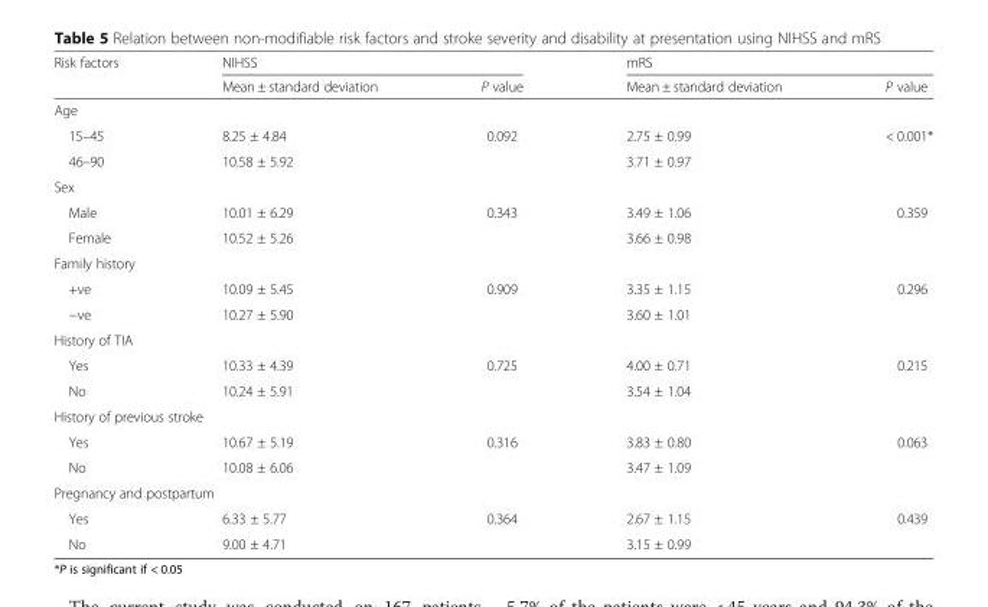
<table><thead><tr><td rowspan="2">Risk factors</td><td colspan="2">NIHSS</td><td colspan="2">mRS</td></tr><tr><td>Mean ± standard deviation</td><td>P value</td><td>Mean ± standard deviation</td><td>P value</td></tr></thead><tbody><tr><td colspan="5">Age</td></tr><tr><td>15–45</td><td>8.25 ± 4.84</td><td>0.092</td><td>2.75 ± 0.99</td><td rowspan="2">&lt; 0.001*</td></tr><tr><td>46–90</td><td>10.58 ± 5.92</td><td></td><td>3.71 ± 0.97</td></tr><tr><td colspan="5">Sex</td></tr><tr><td>Male</td><td>10.01 ± 6.29</td><td>0.343</td><td>3.49 ± 1.06</td><td rowspan="2">0.359</td></tr><tr><td>Female</td><td>10.52 ± 5.26</td><td></td><td>3.66 ± 0.98</td></tr><tr><td colspan="5">Family history</td></tr><tr><td>+ve</td><td>10.09 ± 5.45</td><td>0.909</td><td>3.35 ± 1.15</td><td rowspan="2">0.296</td></tr><tr><td>−ve</td><td>10.27 ± 5.90</td><td></td><td>3.60 ± 1.01</td></tr><tr><td colspan="5">History of TIA</td></tr><tr><td>Yes</td><td>10.33 ± 4.39</td><td>0.725</td><td>4.00 ± 0.71</td><td rowspan="2">0.215</td></tr><tr><td>No</td><td>10.24 ± 5.91</td><td></td><td>3.54 ± 1.04</td></tr><tr><td colspan="5">History of previous stroke</td></tr><tr><td>Yes</td><td>10.67 ± 5.19</td><td>0.316</td><td>3.83 ± 0.80</td><td rowspan="2">0.063</td></tr><tr><td>No</td><td>10.08 ± 6.06</td><td></td><td>3.47 ± 1.09</td></tr><tr><td colspan="5">Pregnancy and postpartum</td></tr><tr><td>Yes</td><td>6.33 ± 5.77</td><td>0.364</td><td>2.67 ± 1.15</td><td rowspan="2">0.439</td></tr><tr><td>No</td><td>9.00 ± 4.71</td><td></td><td>3.15 ± 0.99</td></tr></tbody></table>